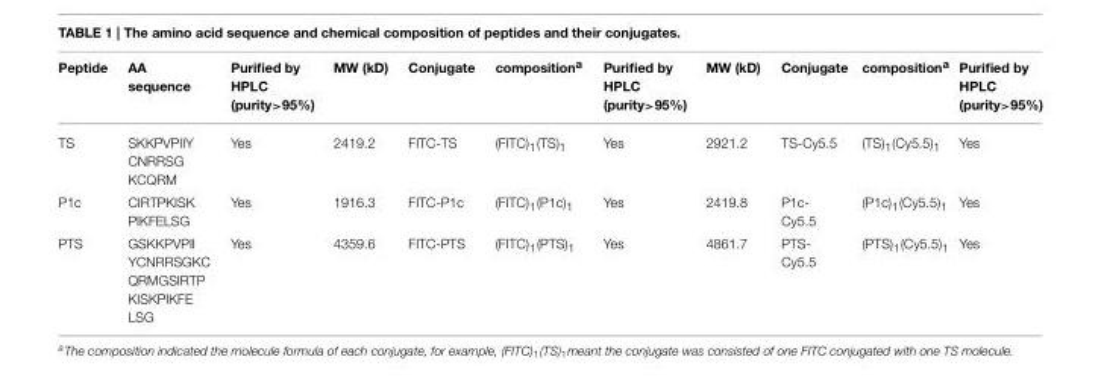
<table><thead><tr><td>Peptide</td><td>AA sequence</td><td>Purified by HPLC (purity&gt;95%)</td><td>MW (kD)</td><td>Conjugate</td><td>composition<sup>a</sup></td><td>Purified by HPLC (purity&gt;95%)</td><td>MW (kD)</td><td>Conjugate</td><td>composition<sup>a</sup></td><td>Purified by HPLC (purity&gt;95%)</td></tr></thead><tbody><tr><td>TS</td><td>SKKPVPIIY CNRRSG KCQRM</td><td>Yes</td><td>2419.2</td><td>FITC-TS</td><td>(FITC)<sub>1</sub>(TS)<sub>1</sub></td><td>Yes</td><td>2921.2</td><td>TS-Cy5.5</td><td>(TS)<sub>1</sub>(Cy5.5)<sub>1</sub></td><td>Yes</td></tr><tr><td>P1c</td><td>CIRTPKISK PIKFELSG</td><td>Yes</td><td>1916.3</td><td>FITC-P1c</td><td>(FITC)<sub>1</sub>(P1c)<sub>1</sub></td><td>Yes</td><td>2419.8</td><td>P1c- Cy5.5</td><td>(P1c)<sub>1</sub>(Cy5.5)<sub>1</sub></td><td>Yes</td></tr><tr><td>PTS</td><td>GSKKPVPII YCNRRSGKC QRMGSIRTP KISKPIKFE LSG</td><td>Yes</td><td>4359.6</td><td>FITC-PTS</td><td>(FITC)<sub>1</sub>(PTS)<sub>1</sub></td><td>Yes</td><td>4861.7</td><td>PTS- Cy5.5</td><td>(PTS)<sub>1</sub>(Cy5.5)<sub>1</sub></td><td>Yes</td></tr></tbody></table>